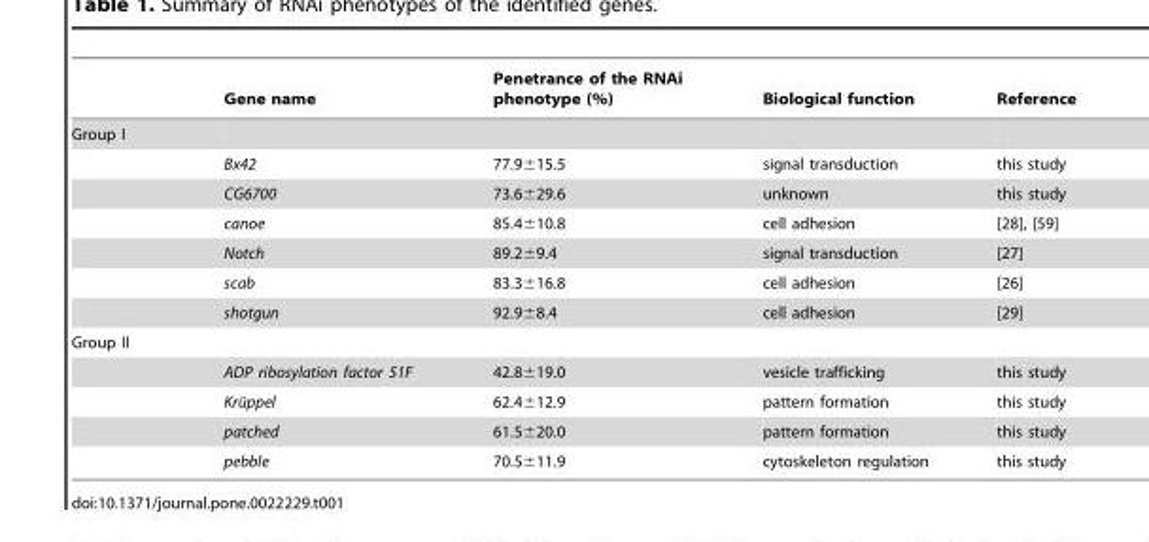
<table><thead><tr><td></td><td>Gene name</td><td>Penetrance of the RNAi phenotype (%)</td><td>Biological function</td><td>Reference</td></tr></thead><tbody><tr><td colspan="5">Group I</td></tr><tr><td></td><td>Bx42</td><td>77.9±15.5</td><td>signal transduction</td><td>this study</td></tr><tr><td></td><td>CG6700</td><td>73.6±29.6</td><td>unknown</td><td>this study</td></tr><tr><td></td><td>canoe</td><td>85.4±10.8</td><td>cell adhesion</td><td>[28], [59]</td></tr><tr><td></td><td>Notch</td><td>89.2±9.4</td><td>signal transduction</td><td>[27]</td></tr><tr><td></td><td>scab</td><td>83.3±16.8</td><td>cell adhesion</td><td>[26]</td></tr><tr><td></td><td>shotgun</td><td>92.9±8.4</td><td>cell adhesion</td><td>[29]</td></tr><tr><td colspan="5">Group II</td></tr><tr><td></td><td>ADP ribosylation factor 51F</td><td>42.8±19.0</td><td>vesicle trafficking</td><td>this study</td></tr><tr><td></td><td>Kru¨ppel</td><td>62.4±12.9</td><td>pattern formation</td><td>this study</td></tr><tr><td></td><td>patched</td><td>61.5±20.0</td><td>pattern formation</td><td>this study</td></tr><tr><td></td><td>pebble</td><td>70.5±11.9</td><td>cytoskeleton regulation</td><td>this study</td></tr></tbody></table>